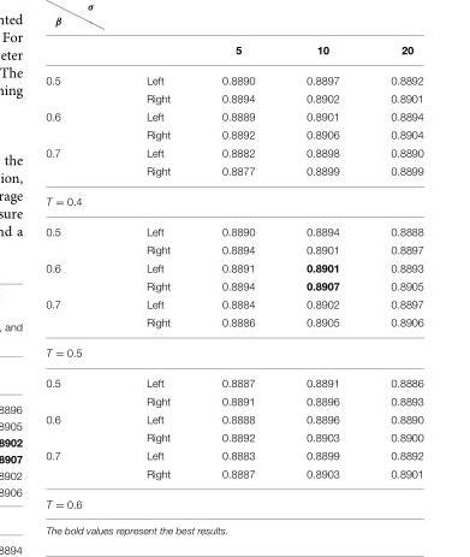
<table><thead><tr><td></td><td></td><td>5</td><td>10</td><td>20</td></tr></thead><tbody><tr><td rowspan="2">0.5</td><td>Left</td><td>0.8890</td><td>0.8897</td><td>0.8892</td></tr><tr><td>Right</td><td>0.8894</td><td>0.8902</td><td>0.8901</td></tr><tr><td rowspan="2">0.6</td><td>Left</td><td>0.8889</td><td>0.8901</td><td>0.8894</td></tr><tr><td>Right</td><td>0.8892</td><td>0.8906</td><td>0.8904</td></tr><tr><td rowspan="2">0.7</td><td>Left</td><td>0.8882</td><td>0.8898</td><td>0.8890</td></tr><tr><td>Right</td><td>0.8877</td><td>0.8899</td><td>0.8899</td></tr><tr><td colspan="5">T = 0.4</td></tr><tr><td rowspan="2">0.5</td><td>Left</td><td>0.8890</td><td>0.8894</td><td>0.8888</td></tr><tr><td>Right</td><td>0.8894</td><td>0.8901</td><td>0.8897</td></tr><tr><td rowspan="2">0.6</td><td>Left</td><td>0.8891</td><td>0.8901</td><td>0.8893</td></tr><tr><td>Right</td><td>0.8894</td><td>0.8907</td><td>0.8905</td></tr><tr><td rowspan="2">0.7</td><td>Left</td><td>0.8884</td><td>0.8902</td><td>0.8897</td></tr><tr><td>Right</td><td>0.8886</td><td>0.8905</td><td>0.8906</td></tr><tr><td colspan="5">T = 0.5</td></tr><tr><td rowspan="2">0.5</td><td>Left</td><td>0.8887</td><td>0.8891</td><td>0.8886</td></tr><tr><td>Right</td><td>0.8891</td><td>0.8896</td><td>0.8893</td></tr><tr><td rowspan="2">0.6</td><td>Left</td><td>0.8888</td><td>0.8896</td><td>0.8890</td></tr><tr><td>Right</td><td>0.8892</td><td>0.8903</td><td>0.8900</td></tr><tr><td rowspan="2">0.7</td><td>Left</td><td>0.8883</td><td>0.8899</td><td>0.8892</td></tr><tr><td>Right</td><td>0.8887</td><td>0.8903</td><td>0.8901</td></tr><tr><td colspan="5">T = 0.6</td></tr></tbody></table>